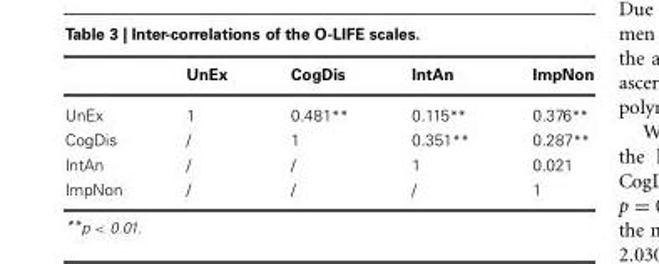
<table><thead><tr><td></td><td>UnEx</td><td>CogDis</td><td>IntAn</td><td>ImpNon</td></tr></thead><tbody><tr><td>UnEx</td><td>1</td><td>0.481**</td><td>0.115**</td><td>0.376**</td></tr><tr><td>CogDis</td><td>/</td><td>1</td><td>0.351**</td><td>0.287**</td></tr><tr><td>IntAn</td><td>/</td><td>/</td><td>1</td><td>0.021</td></tr><tr><td>ImpNon</td><td>/</td><td>/</td><td>/</td><td>1</td></tr></tbody></table>